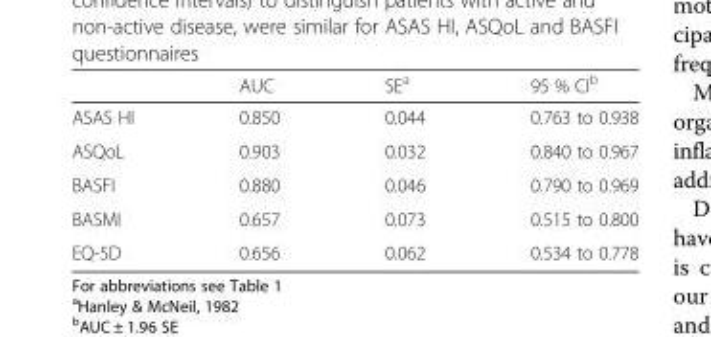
<table><thead><tr><td></td><td>AUC</td><td>SE<sup>a</sup></td><td>95 % CI<sup>b</sup></td></tr></thead><tbody><tr><td>ASAS HI</td><td>0.850</td><td>0.044</td><td>0.763 to 0.938</td></tr><tr><td>ASQoL</td><td>0.903</td><td>0.032</td><td>0.840 to 0.967</td></tr><tr><td>BASFI</td><td>0.880</td><td>0.046</td><td>0.790 to 0.969</td></tr><tr><td>BASMI</td><td>0.657</td><td>0.073</td><td>0.515 to 0.800</td></tr><tr><td>EQ-5D</td><td>0.656</td><td>0.062</td><td>0.534 to 0.778</td></tr></tbody></table>